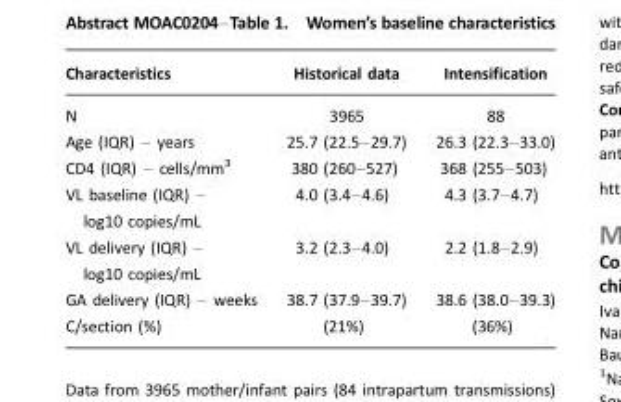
<table><thead><tr><td>Characteristics</td><td>Historical data</td><td>Intensification</td></tr></thead><tbody><tr><td>N</td><td>3965</td><td>88</td></tr><tr><td>Age (IQR) – years</td><td>25.7 (22.5–29.7)</td><td>26.3 (22.3–33.0)</td></tr><tr><td>CD4 (IQR) – cells/mm3</td><td>380 (260–527)</td><td>368 (255–503)</td></tr><tr><td>VL baseline (IQR) – log10 copies/mL</td><td>4.0 (3.4–4.6)</td><td>4.3 (3.7–4.7)</td></tr><tr><td>VL delivery (IQR) – log10 copies/mL</td><td>3.2 (2.3–4.0)</td><td>2.2 (1.8–2.9)</td></tr><tr><td>GA delivery (IQR) – weeks</td><td>38.7 (37.9–39.7)</td><td>38.6 (38.0–39.3)</td></tr><tr><td>C/section (%)</td><td>(21%)</td><td>(36%)</td></tr></tbody></table>